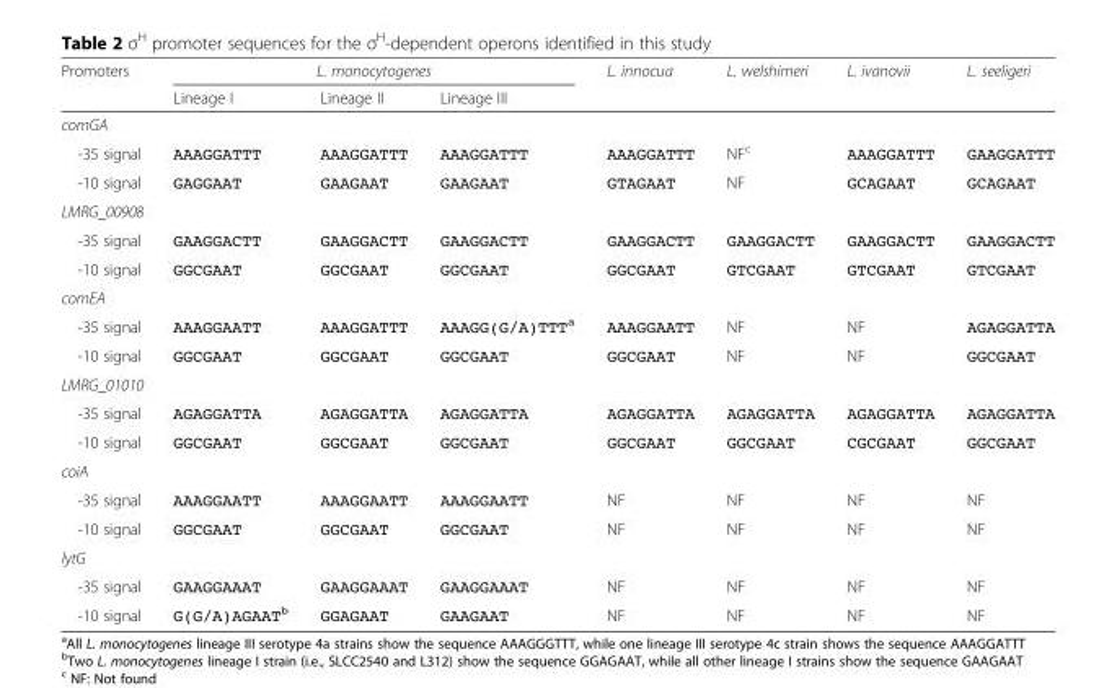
<table><thead><tr><td rowspan="2">Promoters</td><td colspan="3">L. monocytogenes</td><td rowspan="2">L. innocua</td><td rowspan="2">L. welshimeri</td><td rowspan="2">L. ivanovii</td><td rowspan="2">L. seeligeri</td></tr><tr><td>Lineage I</td><td>Lineage II</td><td>Lineage III</td></tr></thead><tbody><tr><td colspan="8">comGA</td></tr><tr><td>-35 signal</td><td>AAAGGATTT</td><td>AAAGGATTT</td><td>AAAGGATTT</td><td>AAAGGATTT</td><td>NF<sup>c</sup></td><td>AAAGGATTT</td><td>GAAGGATTT</td></tr><tr><td>-10 signal</td><td>GAGGAAT</td><td>GAAGAAT</td><td>GAAGAAT</td><td>GTAGAAT</td><td>NF</td><td>GCAGAAT</td><td>GCAGAAT</td></tr><tr><td colspan="8">LMRG_00908</td></tr><tr><td>-35 signal</td><td>GAAGGACTT</td><td>GAAGGACTT</td><td>GAAGGACTT</td><td>GAAGGACTT</td><td>GAAGGACTT</td><td>GAAGGACTT</td><td>GAAGGACTT</td></tr><tr><td>-10 signal</td><td>GGCGAAT</td><td>GGCGAAT</td><td>GGCGAAT</td><td>GGCGAAT</td><td>GTCGAAT</td><td>GTCGAAT</td><td>GTCGAAT</td></tr><tr><td colspan="8">comEA</td></tr><tr><td>-35 signal</td><td>AAAGGAATT</td><td>AAAGGATTT</td><td>AAAGG(G/A)TTT<sup>a</sup></td><td>AAAGGAATT</td><td>NF</td><td>NF</td><td>AGAGGATTA</td></tr><tr><td>-10 signal</td><td>GGCGAAT</td><td>GGCGAAT</td><td>GGCGAAT</td><td>GGCGAAT</td><td>NF</td><td>NF</td><td>GGCGAAT</td></tr><tr><td colspan="8">LMRG_01010</td></tr><tr><td>-35 signal</td><td>AGAGGATTA</td><td>AGAGGATTA</td><td>AGAGGATTA</td><td>AGAGGATTA</td><td>AGAGGATTA</td><td>AGAGGATTA</td><td>AGAGGATTA</td></tr><tr><td>-10 signal</td><td>GGCGAAT</td><td>GGCGAAT</td><td>GGCGAAT</td><td>GGCGAAT</td><td>GGCGAAT</td><td>CGCGAAT</td><td>GGCGAAT</td></tr><tr><td colspan="8">coiA</td></tr><tr><td>-35 signal</td><td>AAAGGAATT</td><td>AAAGGAATT</td><td>AAAGGAATT</td><td>NF</td><td>NF</td><td>NF</td><td>NF</td></tr><tr><td>-10 signal</td><td>GGCGAAT</td><td>GGCGAAT</td><td>GGCGAAT</td><td>NF</td><td>NF</td><td>NF</td><td>NF</td></tr><tr><td colspan="8">lytG</td></tr><tr><td>-35 signal</td><td>GAAGGAAAT</td><td>GAAGGAAAT</td><td>GAAGGAAAT</td><td>NF</td><td>NF</td><td>NF</td><td>NF</td></tr><tr><td>-10 signal</td><td>G(G/A)AGAAT<sup>b</sup></td><td>GGAGAAT</td><td>GAAGAAT</td><td>NF</td><td>NF</td><td>NF</td><td>NF</td></tr></tbody></table>